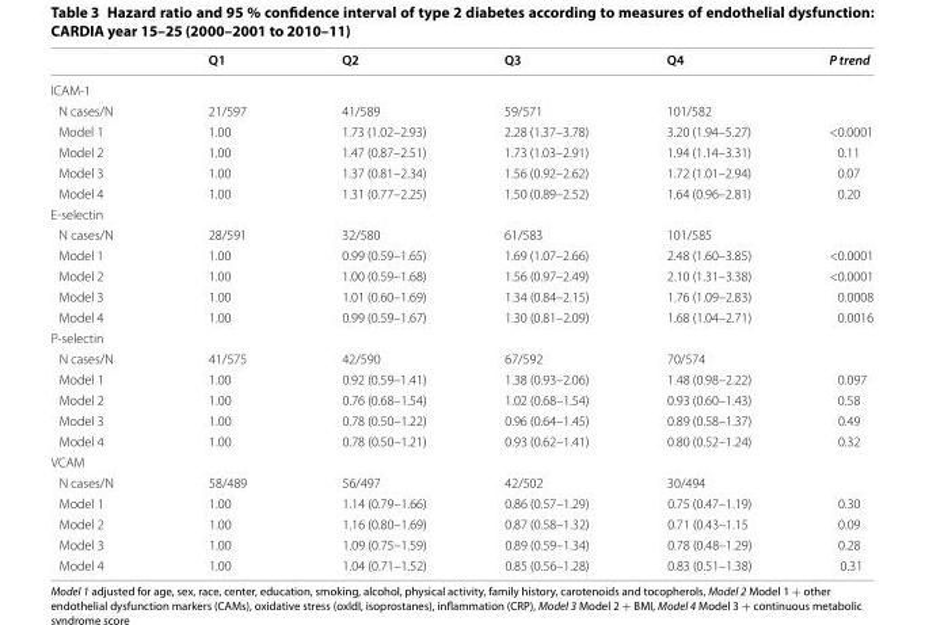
<table><thead><tr><td></td><td>Q1</td><td>Q2</td><td>Q3</td><td>Q4</td><td>P trend</td></tr></thead><tbody><tr><td colspan="6">ICAM-1</td></tr><tr><td>N cases/N</td><td>21/597</td><td>41/589</td><td>59/571</td><td>101/582</td><td></td></tr><tr><td>Model 1</td><td>1.00</td><td>1.73 (1.02–2.93)</td><td>2.28 (1.37–3.78)</td><td>3.20 (1.94–5.27)</td><td>&lt;0.0001</td></tr><tr><td>Model 2</td><td>1.00</td><td>1.47 (0.87–2.51)</td><td>1.73 (1.03–2.91)</td><td>1.94 (1.14–3.31)</td><td>0.11</td></tr><tr><td>Model 3</td><td>1.00</td><td>1.37 (0.81–2.34)</td><td>1.56 (0.92–2.62)</td><td>1.72 (1.01–2.94)</td><td>0.07</td></tr><tr><td>Model 4</td><td>1.00</td><td>1.31 (0.77–2.25)</td><td>1.50 (0.89–2.52)</td><td>1.64 (0.96–2.81)</td><td>0.20</td></tr><tr><td colspan="6">E-selectin</td></tr><tr><td>N cases/N</td><td>28/591</td><td>32/580</td><td>61/583</td><td>101/585</td><td></td></tr><tr><td>Model 1</td><td>1.00</td><td>0.99 (0.59–1.65)</td><td>1.69 (1.07–2.66)</td><td>2.48 (1.60–3.85)</td><td>&lt;0.0001</td></tr><tr><td>Model 2</td><td>1.00</td><td>1.00 (0.59–1.68)</td><td>1.56 (0.97–2.49)</td><td>2.10 (1.31–3.38)</td><td>&lt;0.0001</td></tr><tr><td>Model 3</td><td>1.00</td><td>1.01 (0.60–1.69)</td><td>1.34 (0.84–2.15)</td><td>1.76 (1.09–2.83)</td><td>0.0008</td></tr><tr><td>Model 4</td><td>1.00</td><td>0.99 (0.59–1.67)</td><td>1.30 (0.81–2.09)</td><td>1.68 (1.04–2.71)</td><td>0.0016</td></tr><tr><td colspan="6">P-selectin</td></tr><tr><td>N cases/N</td><td>41/575</td><td>42/590</td><td>67/592</td><td>70/574</td><td></td></tr><tr><td>Model 1</td><td>1.00</td><td>0.92 (0.59–1.41)</td><td>1.38 (0.93–2.06)</td><td>1.48 (0.98–2.22)</td><td>0.097</td></tr><tr><td>Model 2</td><td>1.00</td><td>0.76 (0.68–1.54)</td><td>1.02 (0.68–1.54)</td><td>0.93 (0.60–1.43)</td><td>0.58</td></tr><tr><td>Model 3</td><td>1.00</td><td>0.78 (0.50–1.22)</td><td>0.96 (0.64–1.45)</td><td>0.89 (0.58–1.37)</td><td>0.49</td></tr><tr><td>Model 4</td><td>1.00</td><td>0.78 (0.50–1.21)</td><td>0.93 (0.62–1.41)</td><td>0.80 (0.52–1.24)</td><td>0.32</td></tr><tr><td colspan="6">VCAM</td></tr><tr><td>N cases/N</td><td>58/489</td><td>56/497</td><td>42/502</td><td>30/494</td><td></td></tr><tr><td>Model 1</td><td>1.00</td><td>1.14 (0.79–1.66)</td><td>0.86 (0.57–1.29)</td><td>0.75 (0.47–1.19)</td><td>0.30</td></tr><tr><td>Model 2</td><td>1.00</td><td>1.16 (0.80–1.69)</td><td>0.87 (0.58–1.32)</td><td>0.71 (0.43–1.15</td><td>0.09</td></tr><tr><td>Model 3</td><td>1.00</td><td>1.09 (0.75–1.59)</td><td>0.89 (0.59–1.34)</td><td>0.78 (0.48–1.29)</td><td>0.28</td></tr><tr><td>Model 4</td><td>1.00</td><td>1.04 (0.71–1.52)</td><td>0.85 (0.56–1.28)</td><td>0.83 (0.51–1.38)</td><td>0.31</td></tr></tbody></table>